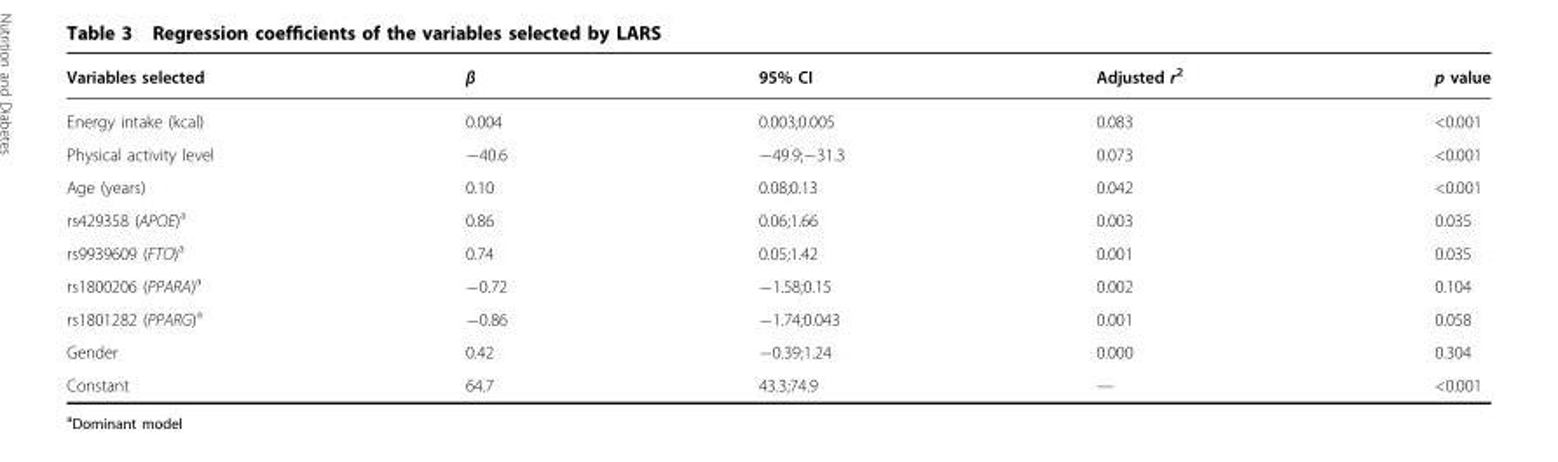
<table><thead><tr><td>Variables selected</td><td>β</td><td>95% CI</td><td>Adjusted r<sup>2</sup></td><td>p value</td></tr></thead><tbody><tr><td>Energy intake (kcal)</td><td>0.004</td><td>0.003;0.005</td><td>0.083</td><td>&lt;0.001</td></tr><tr><td>Physical activity level</td><td>−40.6</td><td>−49.9;−31.3</td><td>0.073</td><td>&lt;0.001</td></tr><tr><td>Age (years)</td><td>0.10</td><td>0.08;0.13</td><td>0.042</td><td>&lt;0.001</td></tr><tr><td>rs429358 (APOE)<sup>a</sup></td><td>0.86</td><td>0.06;1.66</td><td>0.003</td><td>0.035</td></tr><tr><td>rs9939609 (FTO)<sup>a</sup></td><td>0.74</td><td>0.05;1.42</td><td>0.001</td><td>0.035</td></tr><tr><td>rs1800206 (PPARA)<sup>a</sup></td><td>−0.72</td><td>−1.58;0.15</td><td>0.002</td><td>0.104</td></tr><tr><td>rs1801282 (PPARG)<sup>a</sup></td><td>−0.86</td><td>−1.74;0.043</td><td>0.001</td><td>0.058</td></tr><tr><td>Gender</td><td>0.42</td><td>−0.39;1.24</td><td>0.000</td><td>0.304</td></tr><tr><td>Constant</td><td>64.7</td><td>43.3;74.9</td><td>—</td><td>&lt;0.001</td></tr></tbody></table>